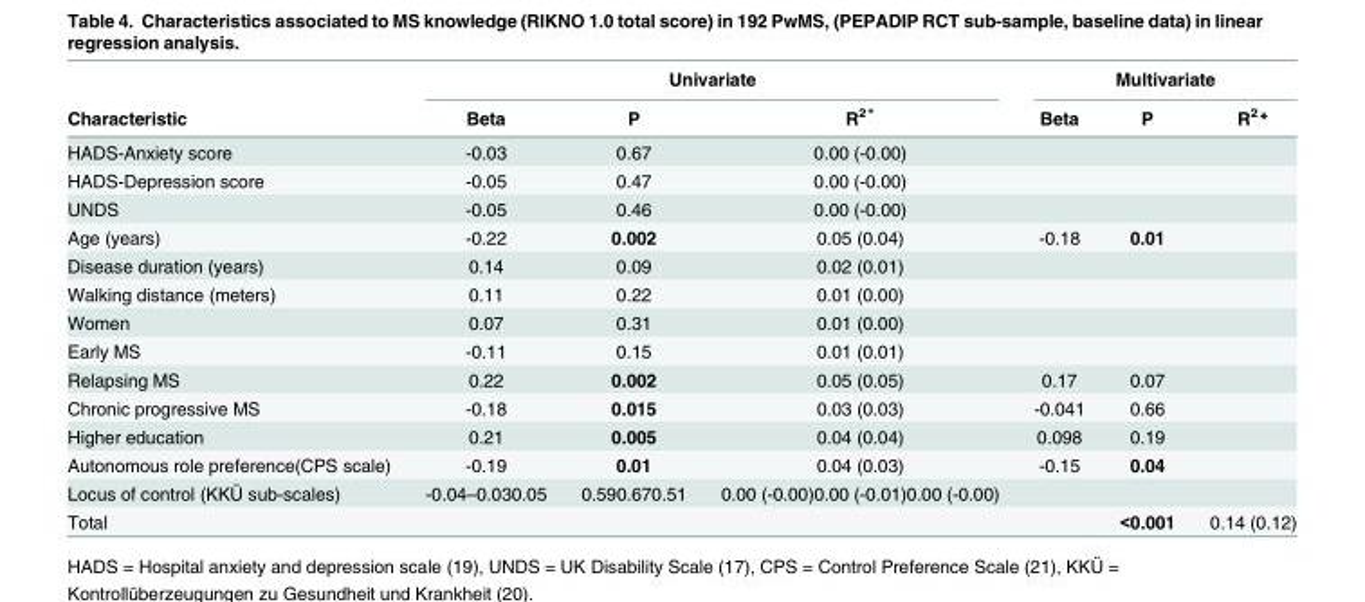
<table><thead><tr><td rowspan="2">Characteristic</td><td colspan="3">Univariate</td><td colspan="3">Multivariate</td></tr><tr><td>Beta</td><td>P</td><td>R<sup>2*</sup></td><td>Beta</td><td>P</td><td>R<sup>2</sup>*</td></tr></thead><tbody><tr><td>HADS-Anxiety score</td><td>-0.03</td><td>0.67</td><td>0.00 (-0.00)</td><td></td><td></td><td></td></tr><tr><td>HADS-Depression score</td><td>-0.05</td><td>0.47</td><td>0.00 (-0.00)</td><td></td><td></td><td></td></tr><tr><td>UNDS</td><td>-0.05</td><td>0.46</td><td>0.00 (-0.00)</td><td></td><td></td><td></td></tr><tr><td>Age (years)</td><td>-0.22</td><td>0.002</td><td>0.05 (0.04)</td><td>-0.18</td><td>0.01</td><td></td></tr><tr><td>Disease duration (years)</td><td>0.14</td><td>0.09</td><td>0.02 (0.01)</td><td></td><td></td><td></td></tr><tr><td>Walking distance (meters)</td><td>0.11</td><td>0.22</td><td>0.01 (0.00)</td><td></td><td></td><td></td></tr><tr><td>Women</td><td>0.07</td><td>0.31</td><td>0.01 (0.00)</td><td></td><td></td><td></td></tr><tr><td>Early MS</td><td>-0.11</td><td>0.15</td><td>0.01 (0.01)</td><td></td><td></td><td></td></tr><tr><td>Relapsing MS</td><td>0.22</td><td>0.002</td><td>0.05 (0.05)</td><td>0.17</td><td>0.07</td><td></td></tr><tr><td>Chronic progressive MS</td><td>-0.18</td><td>0.015</td><td>0.03 (0.03)</td><td>-0.041</td><td>0.66</td><td></td></tr><tr><td>Higher education</td><td>0.21</td><td>0.005</td><td>0.04 (0.04)</td><td>0.098</td><td>0.19</td><td></td></tr><tr><td>Autonomous role preference(CPS scale)</td><td>-0.19</td><td>0.01</td><td>0.04 (0.03)</td><td>-0.15</td><td>0.04</td><td></td></tr><tr><td>Locus of control (KKÜ sub-scales)</td><td>-0.04–0.030.05</td><td>0.590.670.51</td><td>0.00 (-0.00)0.00 (-0.01)0.00 (-0.00)</td><td></td><td></td><td></td></tr><tr><td>Total</td><td></td><td></td><td></td><td></td><td>&lt;0.001</td><td>0.14 (0.12)</td></tr></tbody></table>